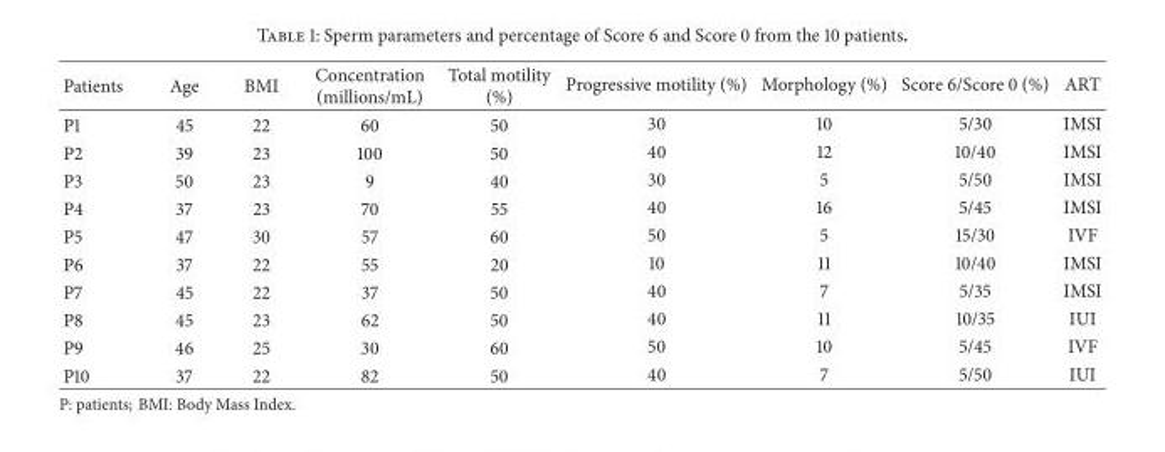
<table><thead><tr><td>Patients</td><td>Age</td><td>BMI</td><td>Concentration (millions/mL)</td><td>Total motility (%)</td><td>Progressive motility (%)</td><td>Morphology (%)</td><td>Score 6/Score 0 (%)</td><td>ART</td></tr></thead><tbody><tr><td>P1</td><td>45</td><td>22</td><td>60</td><td>50</td><td>30</td><td>10</td><td>5/30</td><td>IMSI</td></tr><tr><td>P2</td><td>39</td><td>23</td><td>100</td><td>50</td><td>40</td><td>12</td><td>10/40</td><td>IMSI</td></tr><tr><td>P3</td><td>50</td><td>23</td><td>9</td><td>40</td><td>30</td><td>5</td><td>5/50</td><td>IMSI</td></tr><tr><td>P4</td><td>37</td><td>23</td><td>70</td><td>55</td><td>40</td><td>16</td><td>5/45</td><td>IMSI</td></tr><tr><td>P5</td><td>47</td><td>30</td><td>57</td><td>60</td><td>50</td><td>5</td><td>15/30</td><td>IVF</td></tr><tr><td>P6</td><td>37</td><td>22</td><td>55</td><td>20</td><td>10</td><td>11</td><td>10/40</td><td>IMSI</td></tr><tr><td>P7</td><td>45</td><td>22</td><td>37</td><td>50</td><td>40</td><td>7</td><td>5/35</td><td>IMSI</td></tr><tr><td>P8</td><td>45</td><td>23</td><td>62</td><td>50</td><td>40</td><td>11</td><td>10/35</td><td>IUI</td></tr><tr><td>P9</td><td>46</td><td>25</td><td>30</td><td>60</td><td>50</td><td>10</td><td>5/45</td><td>IVF</td></tr><tr><td>P10</td><td>37</td><td>22</td><td>82</td><td>50</td><td>40</td><td>7</td><td>5/50</td><td>IUI</td></tr></tbody></table>